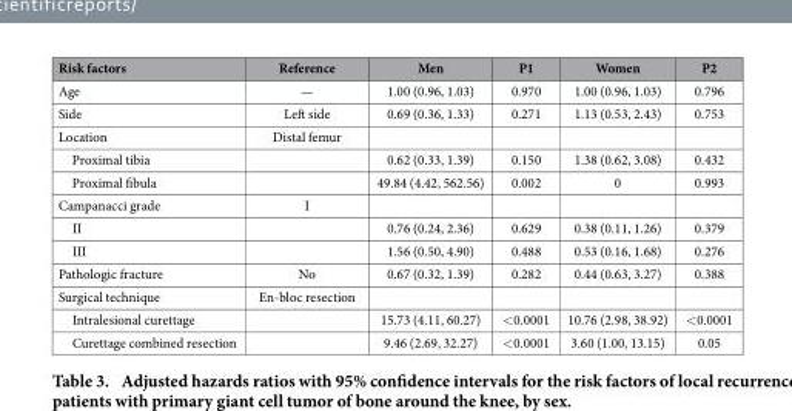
<table><thead><tr><td>Risk factors</td><td>Reference</td><td>Men</td><td>P1</td><td>Women</td><td>P2</td></tr></thead><tbody><tr><td>Age</td><td>—</td><td>1.00 (0.96, 1.03)</td><td>0.970</td><td>1.00 (0.96, 1.03)</td><td>0.796</td></tr><tr><td>Side</td><td>Left side</td><td>0.69 (0.36, 1.33)</td><td>0.271</td><td>1.13 (0.53, 2.43)</td><td>0.753</td></tr><tr><td>Location</td><td>Distal femur</td><td></td><td></td><td></td><td></td></tr><tr><td>Proximal tibia</td><td></td><td>0.62 (0.33, 1.39)</td><td>0.150</td><td>1.38 (0.62, 3.08)</td><td>0.432</td></tr><tr><td>Proximal fibula</td><td></td><td>49.84 (4.42, 562.56)</td><td>0.002</td><td>0</td><td>0.993</td></tr><tr><td>Campanacci grade</td><td>I</td><td></td><td></td><td></td><td></td></tr><tr><td>II</td><td></td><td>0.76 (0.24, 2.36)</td><td>0.629</td><td>0.38 (0.11, 1.26)</td><td>0.379</td></tr><tr><td>III</td><td></td><td>1.56 (0.50, 4.90)</td><td>0.488</td><td>0.53 (0.16, 1.68)</td><td>0.276</td></tr><tr><td>Pathologic fracture</td><td>No</td><td>0.67 (0.32, 1.39)</td><td>0.282</td><td>0.44 (0.63, 3.27)</td><td>0.388</td></tr><tr><td>Surgical technique</td><td>En-bloc resection</td><td></td><td></td><td></td><td></td></tr><tr><td>Intralesional curettage</td><td></td><td>15.73 (4.11, 60.27)</td><td>&lt; 0.0001</td><td>10.76 (2.98, 38.92)</td><td>&lt; 0.0001</td></tr><tr><td>Curettage combined resection</td><td></td><td>9.46 (2.69, 32.27)</td><td>&lt; 0.0001</td><td>3.60 (1.00, 13.15)</td><td>0.05</td></tr></tbody></table>